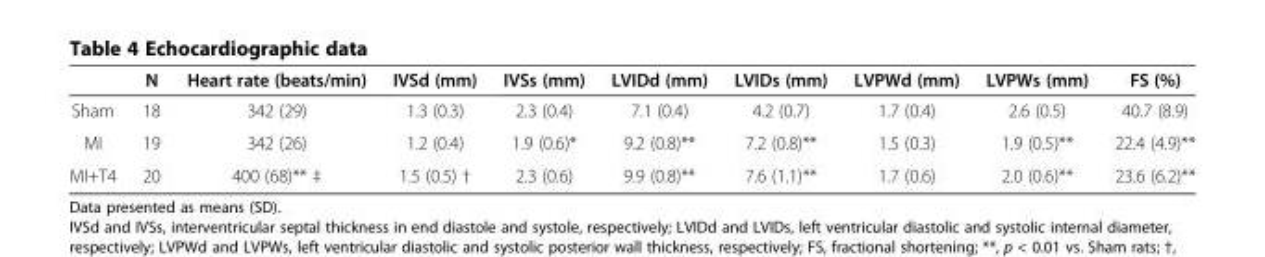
<table><thead><tr><td></td><td>N</td><td>Heart rate (beats/min)</td><td>IVSd (mm)</td><td>IVSs (mm)</td><td>LVIDd (mm)</td><td>LVIDs (mm)</td><td>LVPWd (mm)</td><td>LVPWs (mm)</td><td>FS (%)</td></tr></thead><tbody><tr><td>Sham</td><td>18</td><td>342 (29)</td><td>1.3 (0.3)</td><td>2.3 (0.4)</td><td>7.1 (0.4)</td><td>4.2 (0.7)</td><td>1.7 (0.4)</td><td>2.6 (0.5)</td><td>40.7 (8.9)</td></tr><tr><td>MI</td><td>19</td><td>342 (26)</td><td>1.2 (0.4)</td><td>1.9 (0.6)*</td><td>9.2 (0.8)**</td><td>7.2 (0.8)**</td><td>1.5 (0.3)</td><td>1.9 (0.5)**</td><td>22.4 (4.9)**</td></tr><tr><td>MI+T4</td><td>20</td><td>400 (68)** ‡</td><td>1.5 (0.5) †</td><td>2.3 (0.6)</td><td>9.9 (0.8)**</td><td>7.6 (1.1)**</td><td>1.7 (0.6)</td><td>2.0 (0.6)**</td><td>23.6 (6.2)**</td></tr></tbody></table>